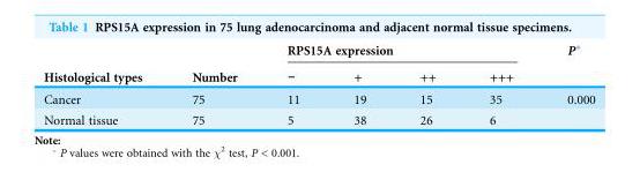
<table><thead><tr><td rowspan="2">Histological types</td><td rowspan="2">Number</td><td colspan="4">RPS15A expression</td><td rowspan="2">P*</td></tr><tr><td>−</td><td>+</td><td>++</td><td>+++</td></tr></thead><tbody><tr><td>Cancer</td><td>75</td><td>11</td><td>19</td><td>15</td><td>35</td><td>0.000</td></tr><tr><td>Normal tissue</td><td>75</td><td>5</td><td>38</td><td>26</td><td>6</td><td></td></tr></tbody></table>